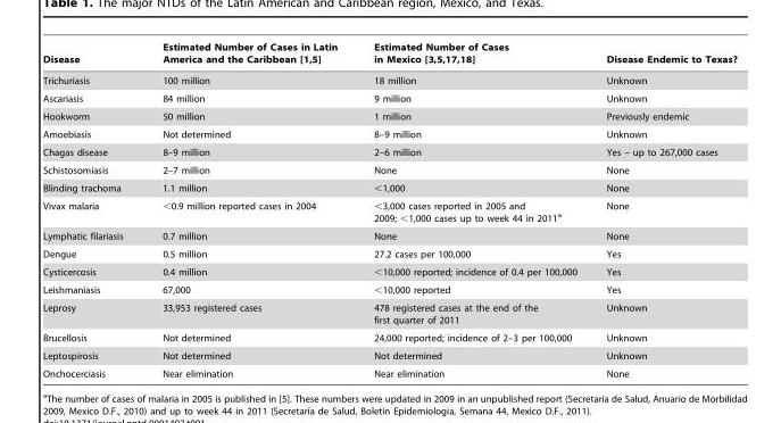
<table><thead><tr><td>Disease</td><td>Estimated Number of Cases in Latin America and the Caribbean [1,5]</td><td>Estimated Number of Cases in Mexico [3,5,17,18]</td><td>Disease Endemic to Texas?</td></tr></thead><tbody><tr><td>Trichuriasis</td><td>100 million</td><td>18 million</td><td>Unknown</td></tr><tr><td>Ascariasis</td><td>84 million</td><td>9 million</td><td>Unknown</td></tr><tr><td>Hookworm</td><td>50 million</td><td>1 million</td><td>Previously endemic</td></tr><tr><td>Amoebiasis</td><td>Not determined</td><td>8–9 million</td><td>Unknown</td></tr><tr><td>Chagas disease</td><td>8–9 million</td><td>2–6 million</td><td>Yes – up to 267,000 cases</td></tr><tr><td>Schistosomiasis</td><td>2–7 million</td><td>None</td><td>None</td></tr><tr><td>Blinding trachoma</td><td>1.1 million</td><td>&lt;1,000</td><td>None</td></tr><tr><td>Vivax malaria</td><td>&lt;0.9 million reported cases in 2004</td><td>&lt;3,000 cases reported in 2005 and 2009; &lt;1,000 cases up to week 44 in 2011<sup>a</sup></td><td>None</td></tr><tr><td>Lymphatic filariasis</td><td>0.7 million</td><td>None</td><td>None</td></tr><tr><td>Dengue</td><td>0.5 million</td><td>27.2 cases per 100,000</td><td>Yes</td></tr><tr><td>Cysticercosis</td><td>0.4 million</td><td>&lt;10,000 reported; incidence of 0.4 per 100,000</td><td>Yes</td></tr><tr><td>Leishmaniasis</td><td>67,000</td><td>&lt;10,000 reported</td><td>Yes</td></tr><tr><td>Leprosy</td><td>33,953 registered cases</td><td>478 registered cases at the end of the first quarter of 2011</td><td>Unknown</td></tr><tr><td>Brucellosis</td><td>Not determined</td><td>24,000 reported; incidence of 2–3 per 100,000</td><td>Unknown</td></tr><tr><td>Leptospirosis</td><td>Not determined</td><td>Not determined</td><td>Unknown</td></tr><tr><td>Onchocerciasis</td><td>Near elimination</td><td>Near elimination</td><td>None</td></tr></tbody></table>